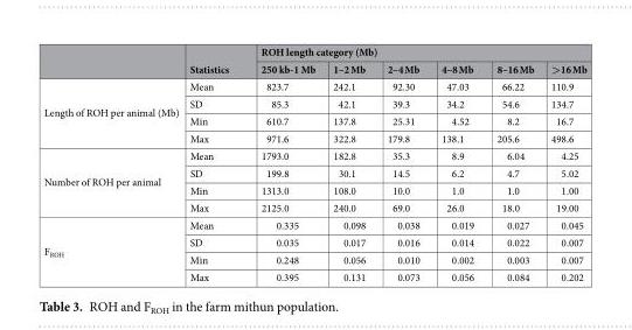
<table><thead><tr><td rowspan="2"></td><td rowspan="2">Statistics</td><td colspan="6">ROH length category (Mb)</td></tr><tr><td>250 kb-1 Mb</td><td>1–2 Mb</td><td>2–4 Mb</td><td>4–8 Mb</td><td>8–16 Mb</td><td>&gt;16 Mb</td></tr></thead><tbody><tr><td rowspan="4">Length of ROH per animal (Mb)</td><td>Mean</td><td>823.7</td><td>242.1</td><td>92.30</td><td>47.03</td><td>66.22</td><td>110.9</td></tr><tr><td>SD</td><td>85.3</td><td>42.1</td><td>39.3</td><td>34.2</td><td>54.6</td><td>134.7</td></tr><tr><td>Min</td><td>610.7</td><td>137.8</td><td>25.31</td><td>4.52</td><td>8.2</td><td>16.7</td></tr><tr><td>Max</td><td>971.6</td><td>322.8</td><td>179.8</td><td>138.1</td><td>205.6</td><td>498.6</td></tr><tr><td rowspan="4">Number of ROH per animal</td><td>Mean</td><td>1793.0</td><td>182.8</td><td>35.3</td><td>8.9</td><td>6.04</td><td>4.25</td></tr><tr><td>SD</td><td>199.8</td><td>30.1</td><td>14.5</td><td>6.2</td><td>4.7</td><td>5.02</td></tr><tr><td>Min</td><td>1313.0</td><td>108.0</td><td>10.0</td><td>1.0</td><td>1.0</td><td>1.00</td></tr><tr><td>Max</td><td>2125.0</td><td>240.0</td><td>69.0</td><td>26.0</td><td>18.0</td><td>19.00</td></tr><tr><td rowspan="4">F<sub>ROH</sub></td><td>Mean</td><td>0.335</td><td>0.098</td><td>0.038</td><td>0.019</td><td>0.027</td><td>0.045</td></tr><tr><td>SD</td><td>0.035</td><td>0.017</td><td>0.016</td><td>0.014</td><td>0.022</td><td>0.007</td></tr><tr><td>Min</td><td>0.248</td><td>0.056</td><td>0.010</td><td>0.002</td><td>0.003</td><td>0.007</td></tr><tr><td>Max</td><td>0.395</td><td>0.131</td><td>0.073</td><td>0.056</td><td>0.084</td><td>0.202</td></tr></tbody></table>